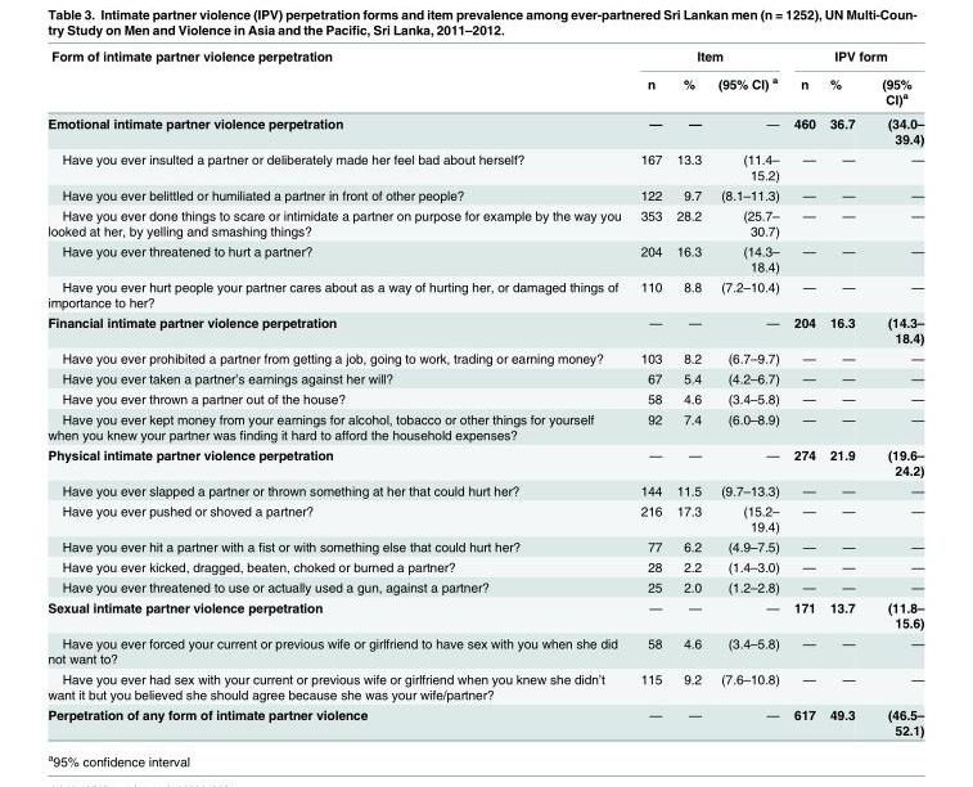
<table><thead><tr><td rowspan="2">Form of intimate partner violence perpetration</td><td colspan="3">Item</td><td colspan="3">IPV form</td></tr><tr><td>n</td><td>%</td><td>(95% CI) <sup>a</sup></td><td>n</td><td>%</td><td>(95% CI)<sup>a</sup></td></tr></thead><tbody><tr><td>Emotional intimate partner violence perpetration</td><td>—</td><td>—</td><td>—</td><td>460</td><td>36.7</td><td>(34.0– 39.4)</td></tr><tr><td>Have you ever insulted a partner or deliberately made her feel bad about herself?</td><td>167</td><td>13.3</td><td>(11.4– 15.2)</td><td>—</td><td>—</td><td>—</td></tr><tr><td>Have you ever belittled or humiliated a partner in front of other people?</td><td>122</td><td>9.7</td><td>(8.1–11.3)</td><td>—</td><td>—</td><td>—</td></tr><tr><td>Have you ever done things to scare or intimidate a partner on purpose for example by the way you looked at her, by yelling and smashing things?</td><td>353</td><td>28.2</td><td>(25.7– 30.7)</td><td>—</td><td>—</td><td>—</td></tr><tr><td>Have you ever threatened to hurt a partner?</td><td>204</td><td>16.3</td><td>(14.3– 18.4)</td><td>—</td><td>—</td><td>—</td></tr><tr><td>Have you ever hurt people your partner cares about as a way of hurting her, or damaged things of importance to her?</td><td>110</td><td>8.8</td><td>(7.2–10.4)</td><td>—</td><td>—</td><td>—</td></tr><tr><td>Financial intimate partner violence perpetration</td><td>—</td><td>—</td><td>—</td><td>204</td><td>16.3</td><td>(14.3– 18.4)</td></tr><tr><td>Have you ever prohibited a partner from getting a job, going to work, trading or earning money?</td><td>103</td><td>8.2</td><td>(6.7–9.7)</td><td>—</td><td>—</td><td>—</td></tr><tr><td>Have you ever taken a partner’s earnings against her will?</td><td>67</td><td>5.4</td><td>(4.2–6.7)</td><td>—</td><td>—</td><td>—</td></tr><tr><td>Have you ever thrown a partner out of the house?</td><td>58</td><td>4.6</td><td>(3.4–5.8)</td><td>—</td><td>—</td><td>—</td></tr><tr><td>Have you ever kept money from your earnings for alcohol, tobacco or other things for yourself when you knew your partner was finding it hard to afford the household expenses?</td><td>92</td><td>7.4</td><td>(6.0–8.9)</td><td>—</td><td>—</td><td>—</td></tr><tr><td>Physical intimate partner violence perpetration</td><td>—</td><td>—</td><td>—</td><td>274</td><td>21.9</td><td>(19.6– 24.2)</td></tr><tr><td>Have you ever slapped a partner or thrown something at her that could hurt her?</td><td>144</td><td>11.5</td><td>(9.7–13.3)</td><td>—</td><td>—</td><td>—</td></tr><tr><td>Have you ever pushed or shoved a partner?</td><td>216</td><td>17.3</td><td>(15.2– 19.4)</td><td>—</td><td>—</td><td>—</td></tr><tr><td>Have you ever hit a partner with a fist or with something else that could hurt her?</td><td>77</td><td>6.2</td><td>(4.9–7.5)</td><td>—</td><td>—</td><td>—</td></tr><tr><td>Have you ever kicked, dragged, beaten, choked or burned a partner?</td><td>28</td><td>2.2</td><td>(1.4–3.0)</td><td>—</td><td>—</td><td>—</td></tr><tr><td>Have you ever threatened to use or actually used a gun, against a partner?</td><td>25</td><td>2.0</td><td>(1.2–2.8)</td><td>—</td><td>—</td><td>—</td></tr><tr><td>Sexual intimate partner violence perpetration</td><td>—</td><td>—</td><td>—</td><td>171</td><td>13.7</td><td>(11.8– 15.6)</td></tr><tr><td>Have you ever forced your current or previous wife or girlfriend to have sex with you when she did not want to?</td><td>58</td><td>4.6</td><td>(3.4–5.8)</td><td>—</td><td>—</td><td>—</td></tr><tr><td>Have you ever had sex with your current or previous wife or girlfriend when you knew she didn’t want it but you believed she should agree because she was your wife/partner?</td><td>115</td><td>9.2</td><td>(7.6–10.8)</td><td>—</td><td>—</td><td>—</td></tr><tr><td>Perpetration of any form of intimate partner violence</td><td>—</td><td>—</td><td>—</td><td>617</td><td>49.3</td><td>(46.5– 52.1)</td></tr></tbody></table>